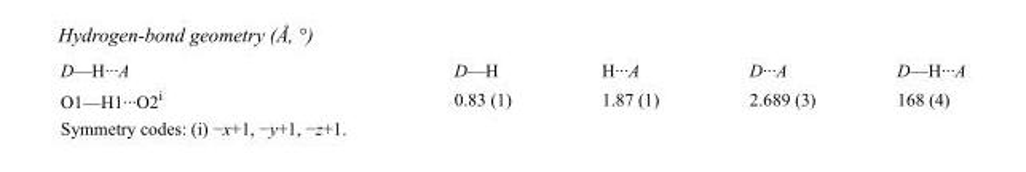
<table><tbody><tr><td>D—H···A</td><td>D—H</td><td>H···A</td><td>D···A</td><td>D—H···A</td></tr><tr><td>O1—H1···O2<sup>i</sup></td><td>0.83 (1)</td><td>1.87 (1)</td><td>2.689 (3)</td><td>168 (4)</td></tr></tbody></table>